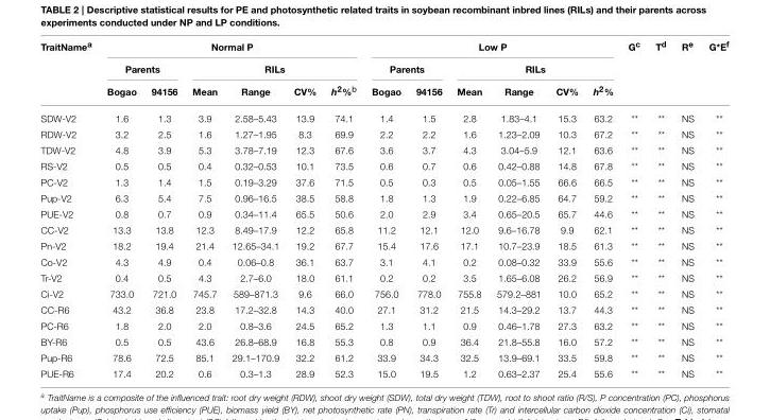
<table><thead><tr><td rowspan="3">TraitName<sup>a</sup></td><td colspan="6">Normal P</td><td colspan="6">Low P</td><td rowspan="3">G<sup>c</sup></td><td rowspan="3">T<sup>d</sup></td><td rowspan="3">R<sup>e</sup></td><td rowspan="3">G*E<sup>f</sup></td></tr><tr><td colspan="2">Parents</td><td colspan="4">RILs</td><td colspan="2">Parents</td><td colspan="4">RILs</td></tr><tr><td>Bogao</td><td>94156</td><td>Mean</td><td>Range</td><td>CV%</td><td>h<sup>2</sup>%<sup>b</sup></td><td>Bogao</td><td>94156</td><td>Mean</td><td>Range</td><td>CV%</td><td>h<sup>2</sup>%</td></tr></thead><tbody><tr><td>SDW-V2</td><td>1.6</td><td>1.3</td><td>3.9</td><td>2.58–5.43</td><td>13.9</td><td>74.1</td><td>1.4</td><td>1.5</td><td>2.8</td><td>1.83–4.1</td><td>15.3</td><td>63.2</td><td>**</td><td>**</td><td>NS</td><td>**</td></tr><tr><td>RDW-V2</td><td>3.2</td><td>2.5</td><td>1.6</td><td>1.27–1.95</td><td>8.3</td><td>69.9</td><td>2.2</td><td>2.2</td><td>1.6</td><td>1.23–2.09</td><td>10.3</td><td>67.2</td><td>**</td><td>**</td><td>NS</td><td>**</td></tr><tr><td>TDW-V2</td><td>4.8</td><td>3.9</td><td>5.3</td><td>3.78–7.19</td><td>12.3</td><td>67.6</td><td>3.6</td><td>3.7</td><td>4.3</td><td>3.04–5.9</td><td>12.1</td><td>63.6</td><td>**</td><td>**</td><td>NS</td><td>**</td></tr><tr><td>RS-V2</td><td>0.5</td><td>0.5</td><td>0.4</td><td>0.32–0.53</td><td>10.1</td><td>73.5</td><td>0.6</td><td>0.7</td><td>0.6</td><td>0.42–0.88</td><td>14.8</td><td>67.8</td><td>**</td><td>**</td><td>NS</td><td>**</td></tr><tr><td>PC-V2</td><td>1.3</td><td>1.4</td><td>1.5</td><td>0.19–3.29</td><td>37.6</td><td>71.5</td><td>0.5</td><td>0.3</td><td>0.5</td><td>0.05–1.55</td><td>66.6</td><td>66.5</td><td>**</td><td>**</td><td>NS</td><td>**</td></tr><tr><td>Pup-V2</td><td>6.3</td><td>5.4</td><td>7.5</td><td>0.96–16.5</td><td>38.5</td><td>58.8</td><td>1.8</td><td>1.3</td><td>1.9</td><td>0.22–6.85</td><td>64.7</td><td>59.2</td><td>**</td><td>**</td><td>NS</td><td>**</td></tr><tr><td>PUE-V2</td><td>0.8</td><td>0.7</td><td>0.9</td><td>0.34–11.4</td><td>65.5</td><td>50.6</td><td>2.0</td><td>2.9</td><td>3.4</td><td>0.65–20.5</td><td>65.7</td><td>44.6</td><td>**</td><td>**</td><td>NS</td><td>**</td></tr><tr><td>CC-V2</td><td>13.3</td><td>13.8</td><td>12.3</td><td>8.49–17.9</td><td>12.2</td><td>65.8</td><td>11.2</td><td>12.1</td><td>12.0</td><td>9.6–16.78</td><td>9.9</td><td>62.1</td><td>**</td><td>**</td><td>NS</td><td>**</td></tr><tr><td>Pn-V2</td><td>18.2</td><td>19.4</td><td>21.4</td><td>12.65–34.1</td><td>19.2</td><td>67.7</td><td>15.4</td><td>17.6</td><td>17.1</td><td>10.7–23.9</td><td>18.5</td><td>61.3</td><td>**</td><td>**</td><td>NS</td><td>**</td></tr><tr><td>Co-V2</td><td>4.3</td><td>4.9</td><td>0.4</td><td>0.06–0.8</td><td>36.1</td><td>63.7</td><td>3.1</td><td>4.1</td><td>0.2</td><td>0.08–0.32</td><td>33.9</td><td>55.6</td><td>**</td><td>**</td><td>NS</td><td>**</td></tr><tr><td>Tr-V2</td><td>0.4</td><td>0.5</td><td>4.3</td><td>2.7–6.0</td><td>18.0</td><td>61.1</td><td>0.2</td><td>0.2</td><td>3.5</td><td>1.65–6.08</td><td>26.2</td><td>56.9</td><td>**</td><td>**</td><td>NS</td><td>**</td></tr><tr><td>Ci-V2</td><td>733.0</td><td>721.0</td><td>745.7</td><td>589–871.3</td><td>9.6</td><td>66.0</td><td>756.0</td><td>778.0</td><td>755.8</td><td>579.2–881</td><td>10.0</td><td>65.2</td><td>**</td><td>**</td><td>NS</td><td>**</td></tr><tr><td>CC-R6</td><td>43.2</td><td>36.8</td><td>23.8</td><td>17.2–32.8</td><td>14.3</td><td>40.0</td><td>27.1</td><td>31.2</td><td>21.5</td><td>14.3–29.2</td><td>13.7</td><td>44.3</td><td>**</td><td>**</td><td>NS</td><td>**</td></tr><tr><td>PC-R6</td><td>1.8</td><td>2.0</td><td>2.0</td><td>0.8–3.6</td><td>24.5</td><td>65.2</td><td>1.3</td><td>1.1</td><td>0.9</td><td>0.46–1.78</td><td>27.3</td><td>63.2</td><td>**</td><td>**</td><td>NS</td><td>**</td></tr><tr><td>BY-R6</td><td>0.5</td><td>0.5</td><td>43.6</td><td>26.8–68.9</td><td>16.8</td><td>55.3</td><td>0.8</td><td>0.9</td><td>36.4</td><td>21.8–55.8</td><td>16.0</td><td>57.2</td><td>**</td><td>**</td><td>NS</td><td>**</td></tr><tr><td>Pup-R6</td><td>78.6</td><td>72.5</td><td>85.1</td><td>29.1–170.9</td><td>32.2</td><td>61.2</td><td>33.9</td><td>34.3</td><td>32.5</td><td>13.9–69.1</td><td>33.5</td><td>59.8</td><td>**</td><td>**</td><td>NS</td><td>**</td></tr><tr><td>PUE-R6</td><td>17.4</td><td>20.2</td><td>0.6</td><td>0.3–1.3</td><td>28.9</td><td>52.3</td><td>15.0</td><td>19.5</td><td>1.2</td><td>0.63–2.37</td><td>25.4</td><td>55.6</td><td>**</td><td>**</td><td>NS</td><td>**</td></tr></tbody></table>